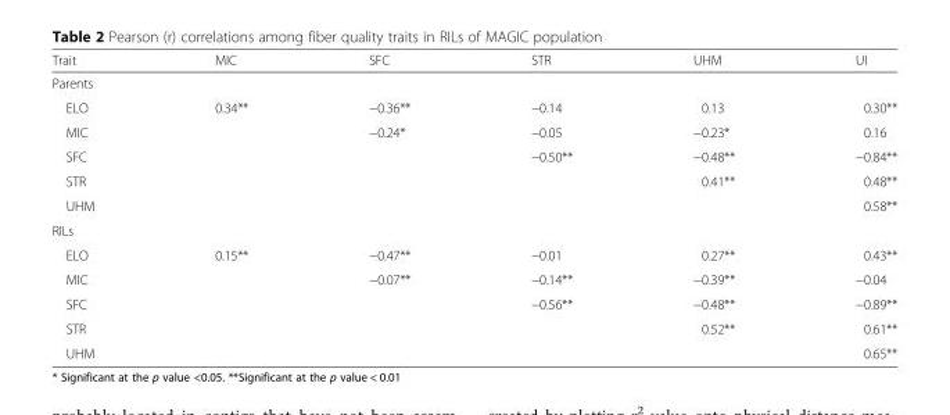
<table><thead><tr><td>Trait</td><td>MIC</td><td>SFC</td><td>STR</td><td>UHM</td><td>UI</td></tr></thead><tbody><tr><td colspan="6">Parents</td></tr><tr><td>ELO</td><td>0.34**</td><td>−0.36**</td><td>−0.14</td><td>0.13</td><td>0.30**</td></tr><tr><td>MIC</td><td></td><td>−0.24*</td><td>−0.05</td><td>−0.23*</td><td>0.16</td></tr><tr><td>SFC</td><td></td><td></td><td>−0.50**</td><td>−0.48**</td><td>−0.84**</td></tr><tr><td>STR</td><td></td><td></td><td></td><td>0.41**</td><td>0.48**</td></tr><tr><td>UHM</td><td></td><td></td><td></td><td></td><td>0.58**</td></tr><tr><td colspan="6">RILs</td></tr><tr><td>ELO</td><td>0.15**</td><td>−0.47**</td><td>−0.01</td><td>0.27**</td><td>0.43**</td></tr><tr><td>MIC</td><td></td><td>−0.07**</td><td>−0.14**</td><td>−0.39**</td><td>−0.04</td></tr><tr><td>SFC</td><td></td><td></td><td>−0.56**</td><td>−0.48**</td><td>−0.89**</td></tr><tr><td>STR</td><td></td><td></td><td></td><td>0.52**</td><td>0.61**</td></tr><tr><td>UHM</td><td></td><td></td><td></td><td></td><td>0.65**</td></tr></tbody></table>